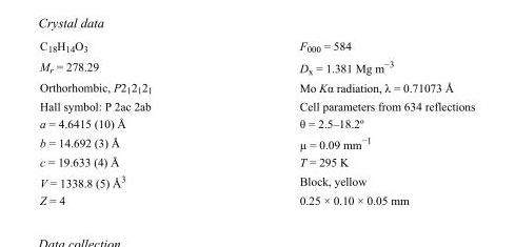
<table><tbody><tr><td>C<sub>18</sub>H<sub>14</sub>O<sub>3</sub></td><td>F000 = 584</td></tr><tr><td>M<sub>r</sub> = 278.29</td><td>D<sub>x</sub> = 1.381 Mg m<sup>−3</sup></td></tr><tr><td>Orthorhombic, P2<sub>1</sub>2<sub>1</sub>2<sub>1</sub></td><td>Mo Kα radiation, λ = 0.71073 Å</td></tr><tr><td>Hall symbol: P 2ac 2ab</td><td>Cell parameters from 634 reflections</td></tr><tr><td>a = 4.6415 (10) Å</td><td>θ = 2.5–18.2º</td></tr><tr><td>b = 14.692 (3) Å</td><td>µ = 0.09 mm<sup>−1</sup></td></tr><tr><td>c = 19.633 (4) Å</td><td>T = 295 K</td></tr><tr><td>V = 1338.8 (5) Å<sup>3</sup></td><td>Block, yellow</td></tr><tr><td>Z = 4</td><td>0.25 × 0.10 × 0.05 mm</td></tr></tbody></table>